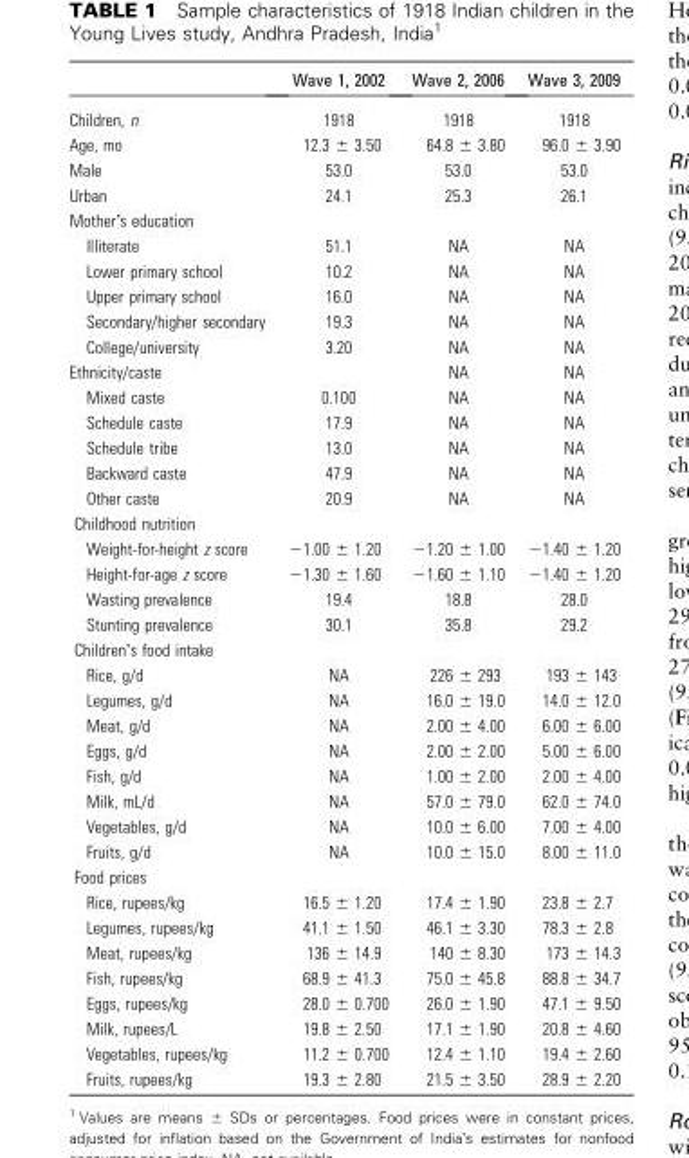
<table><thead><tr><td></td><td>Wave 1, 2002</td><td>Wave 2, 2006</td><td>Wave 3, 2009</td></tr></thead><tbody><tr><td>Children, n</td><td>1918</td><td>1918</td><td>1918</td></tr><tr><td>Age, mo</td><td>12.3 ± 3.50</td><td>64.8 ± 3.80</td><td>96.0 ± 3.90</td></tr><tr><td>Male</td><td>53.0</td><td>53.0</td><td>53.0</td></tr><tr><td>Urban</td><td>24.1</td><td>25.3</td><td>26.1</td></tr><tr><td colspan="4">Mother’s education</td></tr><tr><td>Illiterate</td><td>51.1</td><td>NA</td><td>NA</td></tr><tr><td>Lower primary school</td><td>10.2</td><td>NA</td><td>NA</td></tr><tr><td>Upper primary school</td><td>16.0</td><td>NA</td><td>NA</td></tr><tr><td>Secondary/higher secondary</td><td>19.3</td><td>NA</td><td>NA</td></tr><tr><td>College/university</td><td>3.20</td><td>NA</td><td>NA</td></tr><tr><td>Ethnicity/caste</td><td></td><td>NA</td><td>NA</td></tr><tr><td>Mixed caste</td><td>0.100</td><td>NA</td><td>NA</td></tr><tr><td>Schedule caste</td><td>17.9</td><td>NA</td><td>NA</td></tr><tr><td>Schedule tribe</td><td>13.0</td><td>NA</td><td>NA</td></tr><tr><td>Backward caste</td><td>47.9</td><td>NA</td><td>NA</td></tr><tr><td>Other caste</td><td>20.9</td><td>NA</td><td>NA</td></tr><tr><td colspan="4">Childhood nutrition</td></tr><tr><td>Weight-for-height z score</td><td>−1.00 ± 1.20</td><td>−1.20 ± 1.00</td><td>−1.40 ± 1.20</td></tr><tr><td>Height-for-age z score</td><td>−1.30 ± 1.60</td><td>−1.60 ± 1.10</td><td>−1.40 ± 1.20</td></tr><tr><td>Wasting prevalence</td><td>19.4</td><td>18.8</td><td>28.0</td></tr><tr><td>Stunting prevalence</td><td>30.1</td><td>35.8</td><td>29.2</td></tr><tr><td colspan="4">Children’s food intake</td></tr><tr><td>Rice, g/d</td><td>NA</td><td>226 ± 293</td><td>193 ± 143</td></tr><tr><td>Legumes, g/d</td><td>NA</td><td>16.0 ± 19.0</td><td>14.0 ± 12.0</td></tr><tr><td>Meat, g/d</td><td>NA</td><td>2.00 ± 4.00</td><td>6.00 ± 6.00</td></tr><tr><td>Eggs, g/d</td><td>NA</td><td>2.00 ± 2.00</td><td>5.00 ± 6.00</td></tr><tr><td>Fish, g/d</td><td>NA</td><td>1.00 ± 2.00</td><td>2.00 ± 4.00</td></tr><tr><td>Milk, mL/d</td><td>NA</td><td>57.0 ± 79.0</td><td>62.0 ± 74.0</td></tr><tr><td>Vegetables, g/d</td><td>NA</td><td>10.0 ± 6.00</td><td>7.00 ± 4.00</td></tr><tr><td>Fruits, g/d</td><td>NA</td><td>10.0 ± 15.0</td><td>8.00 ± 11.0</td></tr><tr><td colspan="4">Food prices</td></tr><tr><td>Rice, rupees/kg</td><td>16.5 ± 1.20</td><td>17.4 ± 1.90</td><td>23.8 ± 2.7</td></tr><tr><td>Legumes, rupees/kg</td><td>41.1 ± 1.50</td><td>46.1 ± 3.30</td><td>78.3 ± 2.8</td></tr><tr><td>Meat, rupees/kg</td><td>136 ± 14.9</td><td>140 ± 8.30</td><td>173 ± 14.3</td></tr><tr><td>Fish, rupees/kg</td><td>68.9 ± 41.3</td><td>75.0 ± 45.8</td><td>88.8 ± 34.7</td></tr><tr><td>Eggs, rupees/kg</td><td>28.0 ± 0.700</td><td>26.0 ± 1.90</td><td>47.1 ± 9.50</td></tr><tr><td>Milk, rupees/L</td><td>19.8 ± 2.50</td><td>17.1 ± 1.90</td><td>20.8 ± 4.60</td></tr><tr><td>Vegetables, rupees/kg</td><td>11.2 ± 0.700</td><td>12.4 ± 1.10</td><td>19.4 ± 2.60</td></tr><tr><td>Fruits, rupees/kg</td><td>19.3 ± 2.80</td><td>21.5 ± 3.50</td><td>28.9 ± 2.20</td></tr></tbody></table>